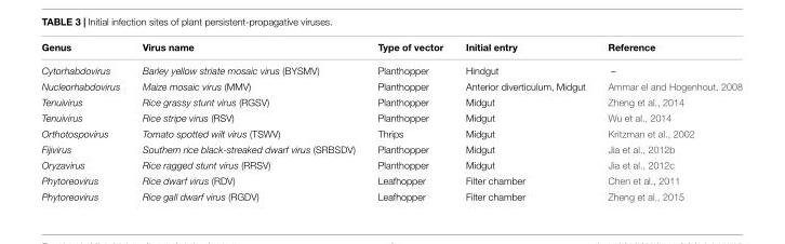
<table><thead><tr><td>Genus</td><td>Virus name</td><td>Type of vector</td><td>Initial entry</td><td>Reference</td></tr></thead><tbody><tr><td>Cytorhabdovirus</td><td>Barley yellow striate mosaic virus (BYSMV)</td><td>Planthopper</td><td>Hindgut</td><td>–</td></tr><tr><td>Nucleorhabdovirus</td><td>Maize mosaic virus (MMV)</td><td>Planthopper</td><td>Anterior diverticulum, Midgut</td><td>Ammar el and Hogenhout, 2008</td></tr><tr><td>Tenuivirus</td><td>Rice grassy stunt virus (RGSV)</td><td>Planthopper</td><td>Midgut</td><td>Zheng et al., 2014</td></tr><tr><td>Tenuivirus</td><td>Rice stripe virus (RSV)</td><td>Planthopper</td><td>Midgut</td><td>Wu et al., 2014</td></tr><tr><td>Orthotospovirus</td><td>Tomato spotted wilt virus (TSWV)</td><td>Thrips</td><td>Midgut</td><td>Kritzman et al., 2002</td></tr><tr><td>Fijivirus</td><td>Southern rice black-streaked dwarf virus (SRBSDV)</td><td>Planthopper</td><td>Midgut</td><td>Jia et al., 2012b</td></tr><tr><td>Oryzavirus</td><td>Rice ragged stunt virus (RRSV)</td><td>Planthopper</td><td>Midgut</td><td>Jia et al., 2012c</td></tr><tr><td>Phytoreovirus</td><td>Rice dwarf virus (RDV)</td><td>Leafhopper</td><td>Filter chamber</td><td>Chen et al., 2011</td></tr><tr><td>Phytoreovirus</td><td>Rice gall dwarf virus (RGDV)</td><td>Leafhopper</td><td>Filter chamber</td><td>Zheng et al., 2015</td></tr></tbody></table>